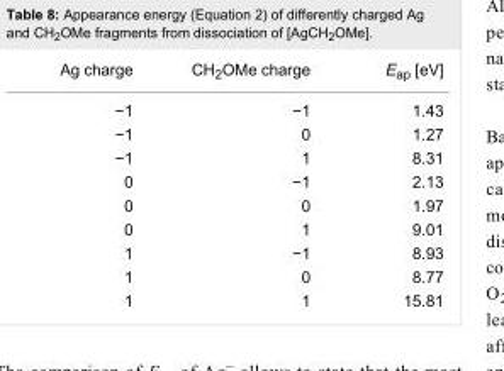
<table><tbody><tr><td>Ag charge</td><td>CH<sub>2</sub>OMe charge</td><td>E<sub>ap</sub> [eV]</td></tr><tr><td>−1</td><td>−1</td><td>1.43</td></tr><tr><td>−1</td><td>0</td><td>1.27</td></tr><tr><td>−1</td><td>1</td><td>8.31</td></tr><tr><td>0</td><td>−1</td><td>2.13</td></tr><tr><td>0</td><td>0</td><td>1.97</td></tr><tr><td>0</td><td>1</td><td>9.01</td></tr><tr><td>1</td><td>−1</td><td>8.93</td></tr><tr><td>1</td><td>0</td><td>8.77</td></tr><tr><td>1</td><td>1</td><td>15.81</td></tr></tbody></table>